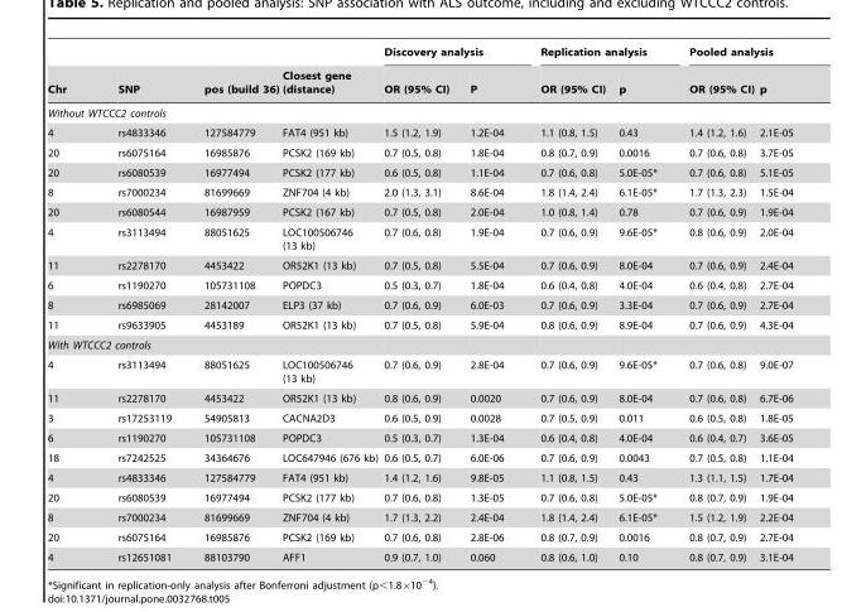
<table><thead><tr><td rowspan="2">Chr</td><td rowspan="2">SNP</td><td rowspan="2">pos (build 36)</td><td rowspan="2">Closest gene (distance)</td><td colspan="2">Discovery analysis</td><td colspan="2">Replication analysis</td><td colspan="2">Pooled analysis</td></tr><tr><td>OR (95% CI)</td><td>P</td><td>OR (95% CI)</td><td>p</td><td>OR (95% CI)</td><td>p</td></tr></thead><tbody><tr><td colspan="10">Without WTCCC2 controls</td></tr><tr><td>4</td><td>rs4833346</td><td>127584779</td><td>FAT4 (951 kb)</td><td>1.5 (1.2, 1.9)</td><td>1.2E-04</td><td>1.1 (0.8, 1.5)</td><td>0.43</td><td>1.4 (1.2, 1.6)</td><td>2.1E-05</td></tr><tr><td>20</td><td>rs6075164</td><td>16985876</td><td>PCSK2 (169 kb)</td><td>0.7 (0.5, 0.8)</td><td>1.8E-04</td><td>0.8 (0.7, 0.9)</td><td>0.0016</td><td>0.7 (0.6, 0.8)</td><td>3.7E-05</td></tr><tr><td>20</td><td>rs6080539</td><td>16977494</td><td>PCSK2 (177 kb)</td><td>0.6 (0.5, 0.8)</td><td>1.1E-04</td><td>0.7 (0.6, 0.8)</td><td>5.0E-05*</td><td>0.7 (0.6, 0.8)</td><td>5.1E-05</td></tr><tr><td>8</td><td>rs7000234</td><td>81699669</td><td>ZNF704 (4 kb)</td><td>2.0 (1.3, 3.1)</td><td>8.6E-04</td><td>1.8 (1.4, 2.4)</td><td>6.1E-05*</td><td>1.7 (1.3, 2.3)</td><td>1.5E-04</td></tr><tr><td>20</td><td>rs6080544</td><td>16987959</td><td>PCSK2 (167 kb)</td><td>0.7 (0.5, 0.8)</td><td>2.0E-04</td><td>1.0 (0.8, 1.4)</td><td>0.78</td><td>0.7 (0.6, 0.9)</td><td>1.9E-04</td></tr><tr><td>4</td><td>rs3113494</td><td>88051625</td><td>LOC100506746 (13 kb)</td><td>0.7 (0.6, 0.8)</td><td>1.9E-04</td><td>0.7 (0.6, 0.9)</td><td>9.6E-05*</td><td>0.8 (0.6, 0.9)</td><td>2.0E-04</td></tr><tr><td>11</td><td>rs2278170</td><td>4453422</td><td>OR52K1 (13 kb)</td><td>0.7 (0.5, 0.8)</td><td>5.5E-04</td><td>0.7 (0.6, 0.9)</td><td>8.0E-04</td><td>0.7 (0.6, 0.9)</td><td>2.4E-04</td></tr><tr><td>6</td><td>rs1190270</td><td>105731108</td><td>POPDC3</td><td>0.5 (0.3, 0.7)</td><td>1.8E-04</td><td>0.6 (0.4, 0.8)</td><td>4.0E-04</td><td>0.6 (0.4, 0.8)</td><td>2.7E-04</td></tr><tr><td>8</td><td>rs6985069</td><td>28142007</td><td>ELP3 (37 kb)</td><td>0.7 (0.6, 0.9)</td><td>6.0E-03</td><td>0.7 (0.6, 0.9)</td><td>3.3E-04</td><td>0.7 (0.6, 0.9)</td><td>2.7E-04</td></tr><tr><td>11</td><td>rs9633905</td><td>4453189</td><td>OR52K1 (13 kb)</td><td>0.7 (0.5, 0.8)</td><td>5.9E-04</td><td>0.8 (0.6, 0.9)</td><td>8.9E-04</td><td>0.7 (0.6, 0.9)</td><td>4.3E-04</td></tr><tr><td colspan="10">With WTCCC2 controls</td></tr><tr><td>4</td><td>rs3113494</td><td>88051625</td><td>LOC100506746 (13 kb)</td><td>0.7 (0.6, 0.9)</td><td>2.8E-04</td><td>0.7 (0.6, 0.9)</td><td>9.6E-05*</td><td>0.7 (0.6, 0.8)</td><td>9.0E-07</td></tr><tr><td>11</td><td>rs2278170</td><td>4453422</td><td>OR52K1 (13 kb)</td><td>0.8 (0.6, 0.9)</td><td>0.0020</td><td>0.7 (0.6, 0.9)</td><td>8.0E-04</td><td>0.7 (0.6, 0.8)</td><td>6.7E-06</td></tr><tr><td>3</td><td>rs17253119</td><td>54905813</td><td>CACNA2D3</td><td>0.6 (0.5, 0.9)</td><td>0.0028</td><td>0.7 (0.5, 0.9)</td><td>0.011</td><td>0.6 (0.5, 0.8)</td><td>1.8E-05</td></tr><tr><td>6</td><td>rs1190270</td><td>105731108</td><td>POPDC3</td><td>0.5 (0.3, 0.7)</td><td>1.3E-04</td><td>0.6 (0.4, 0.8)</td><td>4.0E-04</td><td>0.6 (0.4, 0.7)</td><td>3.6E-05</td></tr><tr><td>18</td><td>rs7242525</td><td>34364676</td><td>LOC647946 (676 kb)</td><td>0.6 (0.5, 0.7)</td><td>6.0E-06</td><td>0.7 (0.6, 0.9)</td><td>0.0043</td><td>0.7 (0.5, 0.8)</td><td>1.1E-04</td></tr><tr><td>4</td><td>rs4833346</td><td>127584779</td><td>FAT4 (951 kb)</td><td>1.4 (1.2, 1.6)</td><td>9.8E-05</td><td>1.1 (0.8, 1.5)</td><td>0.43</td><td>1.3 (1.1, 1.5)</td><td>1.7E-04</td></tr><tr><td>20</td><td>rs6080539</td><td>16977494</td><td>PCSK2 (177 kb)</td><td>0.7 (0.6, 0.8)</td><td>1.3E-05</td><td>0.7 (0.6, 0.8)</td><td>5.0E-05*</td><td>0.8 (0.7, 0.9)</td><td>1.9E-04</td></tr><tr><td>8</td><td>rs7000234</td><td>81699669</td><td>ZNF704 (4 kb)</td><td>1.7 (1.3, 2.2)</td><td>2.4E-04</td><td>1.8 (1.4, 2.4)</td><td>6.1E-05*</td><td>1.5 (1.2, 1.9)</td><td>2.2E-04</td></tr><tr><td>20</td><td>rs6075164</td><td>16985876</td><td>PCSK2 (169 kb)</td><td>0.7 (0.6, 0.8)</td><td>2.8E-06</td><td>0.8 (0.7, 0.9)</td><td>0.0016</td><td>0.8 (0.7, 0.9)</td><td>2.7E-04</td></tr><tr><td>4</td><td>rs12651081</td><td>88103790</td><td>AFF1</td><td>0.9 (0.7, 1.0)</td><td>0.060</td><td>0.8 (0.6, 1.0)</td><td>0.10</td><td>0.8 (0.7, 0.9)</td><td>3.1E-04</td></tr></tbody></table>